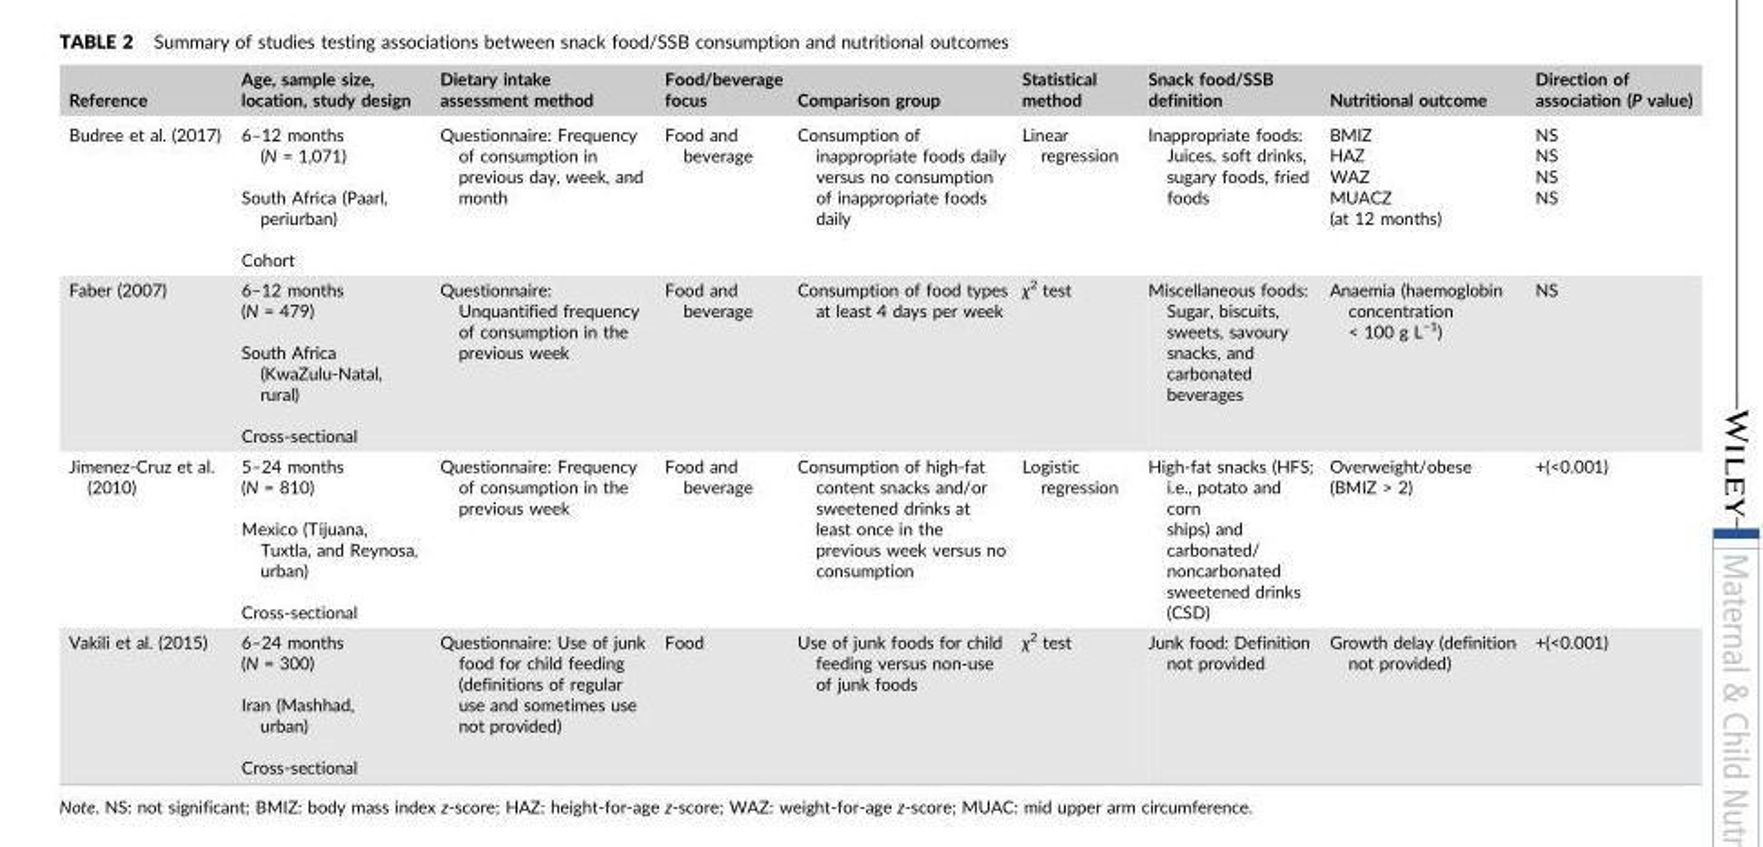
<table><thead><tr><td>Reference</td><td>Age, sample size, location, study design</td><td>Dietary intake assessment method</td><td>Food/beverage focus</td><td>Comparison group</td><td>Statistical method</td><td>Snack food/SSB definition</td><td>Nutritional outcome</td><td>Direction of association (P value)</td></tr></thead><tbody><tr><td>Budree et al. (2017)</td><td>6–12 months (N = 1,071) South Africa (Paarl, periurban) Cohort</td><td>Questionnaire: Frequency of consumption in previous day, week, and month</td><td>Food and beverage</td><td>Consumption of inappropriate foods daily versus no consumption of inappropriate foods daily</td><td>Linear regression</td><td>Inappropriate foods: Juices, soft drinks, sugary foods, fried foods</td><td>BMIZ HAZ WAZ MUACZ (at 12 months)</td><td>NS NS NS NS</td></tr><tr><td>Faber (2007)</td><td>6–12 months (N = 479) South Africa (KwaZulu‐Natal, rural) Cross‐sectional</td><td>Questionnaire: Unquantified frequency of consumption in the previous week</td><td>Food and beverage</td><td>Consumption of food types at least 4 days per week</td><td>χ<sup>2</sup> test</td><td>Miscellaneous foods: Sugar, biscuits, sweets, savoury snacks, and carbonated beverages</td><td>Anaemia (haemoglobin concentration &lt; 100 g L<sup>−1</sup>)</td><td>NS</td></tr><tr><td>Jimenez‐Cruz et al. (2010)</td><td>5–24 months (N = 810) Mexico (Tijuana, Tuxtla, and Reynosa, urban) Cross‐sectional</td><td>Questionnaire: Frequency of consumption in the previous week</td><td>Food and beverage</td><td>Consumption of high‐fat content snacks and/or sweetened drinks at least once in the previous week versus no consumption</td><td>Logistic regression</td><td>High‐fat snacks (HFS; i.e., potato and corn ships) and carbonated/ noncarbonated sweetened drinks (CSD)</td><td>Overweight/obese (BMIZ &gt; 2)</td><td>+(&lt;0.001)</td></tr><tr><td>Vakili et al. (2015)</td><td>6–24 months (N = 300) Iran (Mashhad, urban) Cross‐sectional</td><td>Questionnaire: Use of junk food for child feeding (definitions of regular use and sometimes use not provided)</td><td>Food</td><td>Use of junk foods for child feeding versus non‐use of junk foods</td><td>χ<sup>2</sup> test</td><td>Junk food: Definition not provided</td><td>Growth delay (definition not provided)</td><td>+(&lt;0.001)</td></tr></tbody></table>